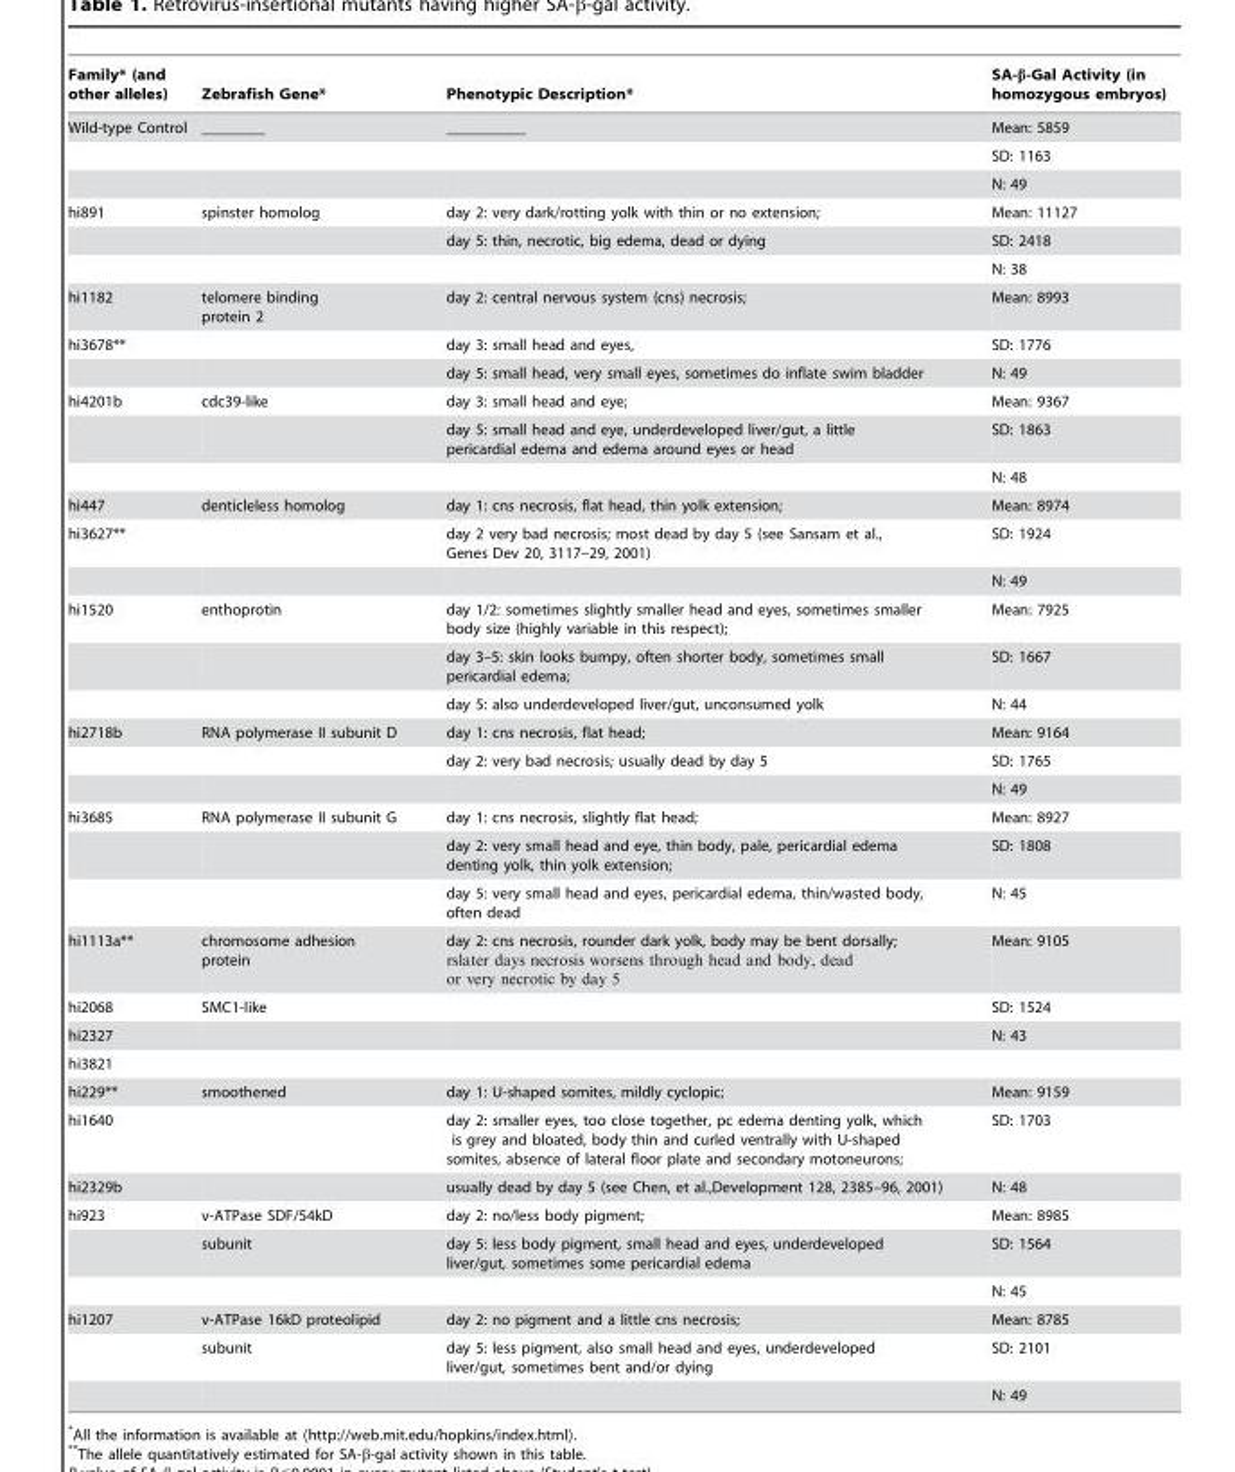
<table><thead><tr><td>Family* (and other alleles)</td><td>Zebrafish Gene*</td><td>Phenotypic Description*</td><td>SA-β-Gal Activity (in homozygous embryos)</td></tr></thead><tbody><tr><td rowspan="3">Wild-type Control</td><td>________</td><td>__________</td><td>Mean: 5859</td></tr><tr><td></td><td></td><td>SD: 1163</td></tr><tr><td></td><td></td><td>N: 49</td></tr><tr><td rowspan="3">hi891</td><td>spinster homolog</td><td>day 2: very dark/rotting yolk with thin or no extension;</td><td>Mean: 11127</td></tr><tr><td></td><td>day 5: thin, necrotic, big edema, dead or dying</td><td>SD: 2418</td></tr><tr><td></td><td></td><td>N: 38</td></tr><tr><td>hi1182</td><td>telomere binding protein 2</td><td>day 2: central nervous system (cns) necrosis;</td><td>Mean: 8993</td></tr><tr><td rowspan="2">hi3678**</td><td></td><td>day 3: small head and eyes,</td><td>SD: 1776</td></tr><tr><td></td><td>day 5: small head, very small eyes, sometimes do inflate swim bladder</td><td>N: 49</td></tr><tr><td rowspan="3">hi4201b</td><td>cdc39-like</td><td>day 3: small head and eye;</td><td>Mean: 9367</td></tr><tr><td></td><td>day 5: small head and eye, underdeveloped liver/gut, a little pericardial edema and edema around eyes or head</td><td>SD: 1863</td></tr><tr><td></td><td></td><td>N: 48</td></tr><tr><td>hi447</td><td>denticleless homolog</td><td>day 1: cns necrosis, flat head, thin yolk extension;</td><td>Mean: 8974</td></tr><tr><td rowspan="2">hi3627**</td><td></td><td>day 2 very bad necrosis; most dead by day 5 (see Sansam et al., Genes Dev 20, 3117–29, 2001)</td><td>SD: 1924</td></tr><tr><td></td><td></td><td>N: 49</td></tr><tr><td rowspan="3">hi1520</td><td>enthoprotin</td><td>day 1/2: sometimes slightly smaller head and eyes, sometimes smaller body size (highly variable in this respect);</td><td>Mean: 7925</td></tr><tr><td></td><td>day 3–5: skin looks bumpy, often shorter body, sometimes small pericardial edema;</td><td>SD: 1667</td></tr><tr><td></td><td>day 5: also underdeveloped liver/gut, unconsumed yolk</td><td>N: 44</td></tr><tr><td rowspan="3">hi2718b</td><td>RNA polymerase II subunit D</td><td>day 1: cns necrosis, flat head;</td><td>Mean: 9164</td></tr><tr><td></td><td>day 2: very bad necrosis; usually dead by day 5</td><td>SD: 1765</td></tr><tr><td></td><td></td><td>N: 49</td></tr><tr><td rowspan="3">hi3685</td><td>RNA polymerase II subunit G</td><td>day 1: cns necrosis, slightly flat head;</td><td>Mean: 8927</td></tr><tr><td></td><td>day 2: very small head and eye, thin body, pale, pericardial edema denting yolk, thin yolk extension;</td><td>SD: 1808</td></tr><tr><td></td><td>day 5: very small head and eyes, pericardial edema, thin/wasted body, often dead</td><td>N: 45</td></tr><tr><td>hi1113a**</td><td>chromosome adhesion protein</td><td>day 2: cns necrosis, rounder dark yolk, body may be bent dorsally; rslater days necrosis worsens through head and body, dead or very necrotic by day 5</td><td>Mean: 9105</td></tr><tr><td>hi2068</td><td>SMC1-like</td><td></td><td>SD: 1524</td></tr><tr><td>hi2327</td><td></td><td></td><td>N: 43</td></tr><tr><td colspan="4">hi3821</td></tr><tr><td>hi229**</td><td>smoothened</td><td>day 1: U-shaped somites, mildly cyclopic;</td><td>Mean: 9159</td></tr><tr><td>hi1640</td><td></td><td>day 2: smaller eyes, too close together, pc edema denting yolk, which is grey and bloated, body thin and curled ventrally with U-shaped somites, absence of lateral floor plate and secondary motoneurons;</td><td>SD: 1703</td></tr><tr><td>hi2329b</td><td></td><td>usually dead by day 5 (see Chen, et al.,Development 128, 2385–96, 2001)</td><td>N: 48</td></tr><tr><td rowspan="3">hi923</td><td>v-ATPase SDF/54kD</td><td>day 2: no/less body pigment;</td><td>Mean: 8985</td></tr><tr><td>subunit</td><td>day 5: less body pigment, small head and eyes, underdeveloped liver/gut, sometimes some pericardial edema</td><td>SD: 1564</td></tr><tr><td></td><td></td><td>N: 45</td></tr><tr><td rowspan="3">hi1207</td><td>v-ATPase 16kD proteolipid</td><td>day 2: no pigment and a little cns necrosis;</td><td>Mean: 8785</td></tr><tr><td>subunit</td><td>day 5: less pigment, also small head and eyes, underdeveloped liver/gut, sometimes bent and/or dying</td><td>SD: 2101</td></tr><tr><td></td><td></td><td>N: 49</td></tr></tbody></table>